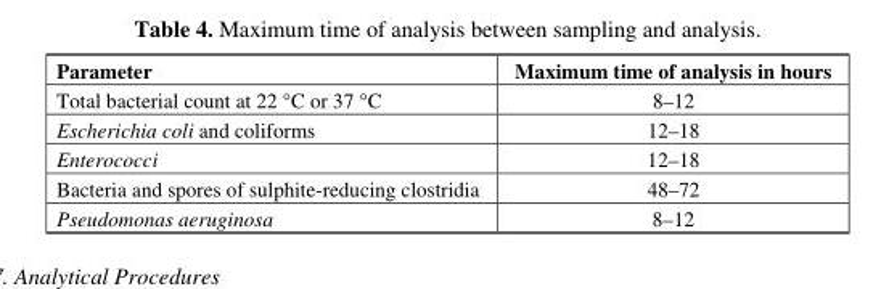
<table><thead><tr><td>Parameter</td><td>Maximum time of analysis in hours</td></tr></thead><tbody><tr><td>Total bacterial count at 22 °C or 37 °C</td><td>8–12</td></tr><tr><td>Escherichia coli and coliforms</td><td>12–18</td></tr><tr><td>Enterococci</td><td>12–18</td></tr><tr><td>Bacteria and spores of sulphite-reducing clostridia</td><td>48–72</td></tr><tr><td>Pseudomonas aeruginosa</td><td>8–12</td></tr></tbody></table>